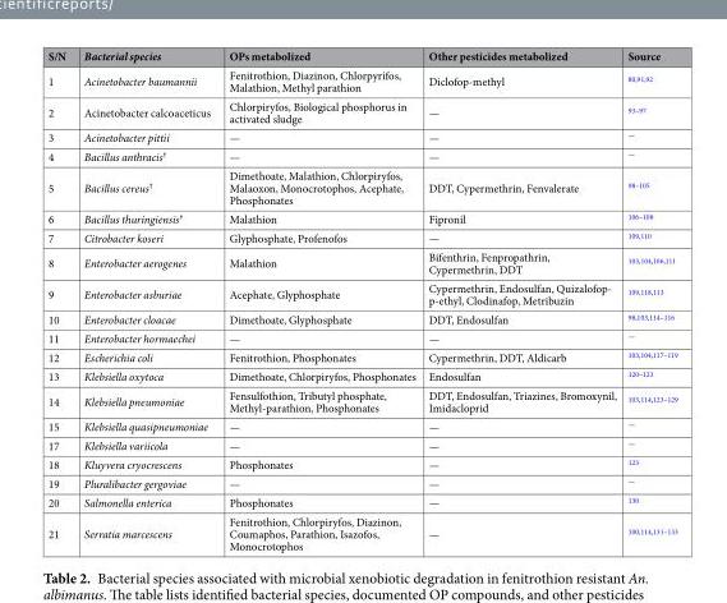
<table><thead><tr><td>S/N</td><td>Bacterial species</td><td>OPs metabolized</td><td>Other pesticides metabolized</td><td>Source</td></tr></thead><tbody><tr><td>1</td><td>Acinetobacter baumannii</td><td>Fenitrothion, Diazinon, Chlorpyrifos, Malathion, Methyl parathion</td><td>Diclofop-methyl</td><td><sup>80,91,92</sup></td></tr><tr><td>2</td><td>Acinetobacter calcoaceticus</td><td>Chlorpiryfos, Biological phosphorus in activated sludge</td><td>—</td><td><sup>93–97</sup></td></tr><tr><td>3</td><td>Acinetobacter pittii</td><td>—</td><td>—</td><td><sup>—</sup></td></tr><tr><td>4</td><td>Bacillus anthracis<sup>†</sup></td><td>—</td><td>—</td><td><sup>—</sup></td></tr><tr><td>5</td><td>Bacillus cereus<sup>†</sup></td><td>Dimethoate, Malathion, Chlorpiryfos, Malaoxon, Monocrotophos, Acephate, Phosphonates</td><td>DDT, Cypermethrin, Fenvalerate</td><td><sup>98–105</sup></td></tr><tr><td>6</td><td>Bacillus thuringiensis<sup>†</sup></td><td>Malathion</td><td>Fipronil</td><td><sup>106–108</sup></td></tr><tr><td>7</td><td>Citrobacter koseri</td><td>Glyphosphate, Profenofos</td><td>—</td><td><sup>109,110</sup></td></tr><tr><td>8</td><td>Enterobacter aerogenes</td><td>Malathion</td><td>Bifenthrin, Fenpropathrin, Cypermethrin, DDT</td><td><sup>103,104,106,111</sup></td></tr><tr><td>9</td><td>Enterobacter asburiae</td><td>Acephate, Glyphosphate</td><td>Cypermethrin, Endosulfan, Quizalofop- p-ethyl, Clodinafop, Metribuzin</td><td><sup>109,118,113</sup></td></tr><tr><td>10</td><td>Enterobacter cloacae</td><td>Dimethoate, Glyphosphate</td><td>DDT, Endosulfan</td><td><sup>98,103,114–116</sup></td></tr><tr><td>11</td><td>Enterobacter hormaechei</td><td>—</td><td>—</td><td><sup>—</sup></td></tr><tr><td>12</td><td>Escherichia coli</td><td>Fenitrothion, Phosphonates</td><td>Cypermethrin, DDT, Aldicarb</td><td><sup>103,104,117–119</sup></td></tr><tr><td>13</td><td>Klebsiella oxytoca</td><td>Dimethoate, Chlorpiryfos, Phosphonates</td><td>Endosulfan</td><td><sup>120–123</sup></td></tr><tr><td>14</td><td>Klebsiella pneumoniae</td><td>Fensulfothion, Tributyl phosphate, Methyl-parathion, Phosphonates</td><td>DDT, Endosulfan, Triazines, Bromoxynil, Imidacloprid</td><td><sup>103,114,123–129</sup></td></tr><tr><td>15</td><td>Klebsiella quasipneumoniae</td><td>—</td><td>—</td><td><sup>—</sup></td></tr><tr><td>17</td><td>Klebsiella variicola</td><td>—</td><td>—</td><td><sup>—</sup></td></tr><tr><td>18</td><td>Kluyvera cryocrescens</td><td>Phosphonates</td><td>—</td><td><sup>123</sup></td></tr><tr><td>19</td><td>Pluralibacter gergoviae</td><td>—</td><td>—</td><td><sup>—</sup></td></tr><tr><td>20</td><td>Salmonella enterica</td><td>Phosphonates</td><td>—</td><td><sup>130</sup></td></tr><tr><td>21</td><td>Serratia marcescens</td><td>Fenitrothion, Chlorpiryfos, Diazinon, Coumaphos, Parathion, Isazofos, Monocrotophos</td><td>—</td><td><sup>100,114,131–133</sup></td></tr></tbody></table>